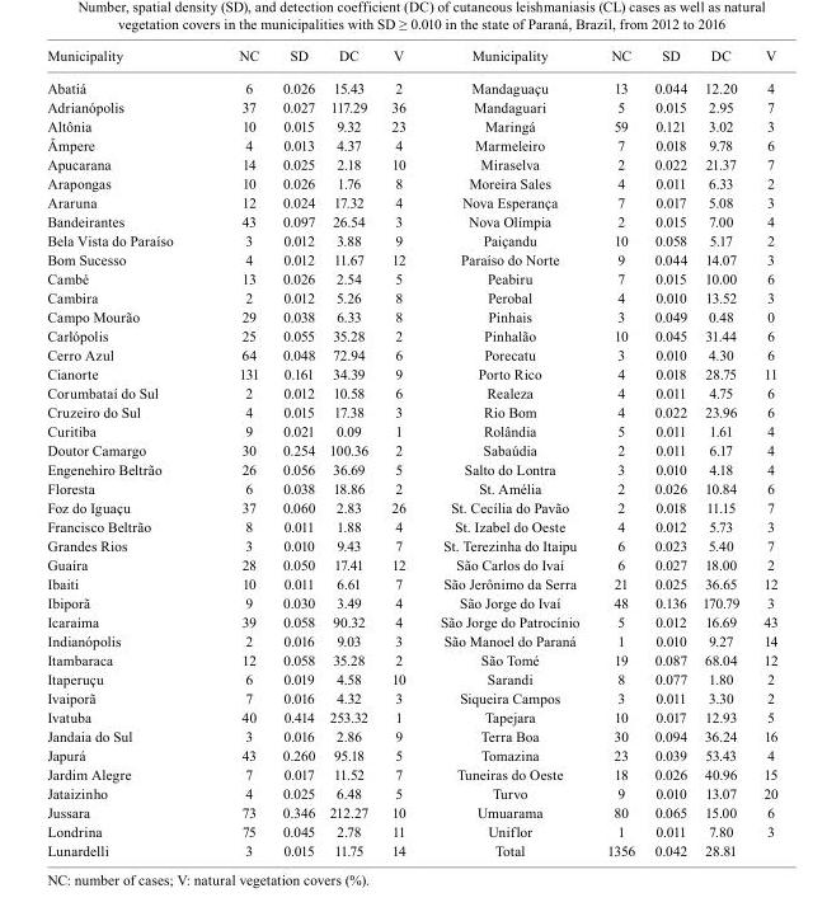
<table><thead><tr><td>Municipality</td><td>NC</td><td>SD</td><td>DC</td><td>V</td><td>Municipality</td><td>NC</td><td>SD</td><td>DC</td><td>V</td></tr></thead><tbody><tr><td>Abatiá</td><td>6</td><td>0.026</td><td>15.43</td><td>2</td><td>Mandaguaçu</td><td>13</td><td>0.044</td><td>12.20</td><td>4</td></tr><tr><td>Adrianópolis</td><td>37</td><td>0.027</td><td>117.29</td><td>36</td><td>Mandaguari</td><td>5</td><td>0.015</td><td>2.95</td><td>7</td></tr><tr><td>Altônia</td><td>10</td><td>0.015</td><td>9.32</td><td>23</td><td>Maringá</td><td>59</td><td>0.121</td><td>3.02</td><td>3</td></tr><tr><td>Âmpere</td><td>4</td><td>0.013</td><td>4.37</td><td>4</td><td>Marmeleiro</td><td>7</td><td>0.018</td><td>9.78</td><td>6</td></tr><tr><td>Apucarana</td><td>14</td><td>0.025</td><td>2.18</td><td>10</td><td>Miraselva</td><td>2</td><td>0.022</td><td>21.37</td><td>7</td></tr><tr><td>Arapongas</td><td>10</td><td>0.026</td><td>1.76</td><td>8</td><td>Moreira Sales</td><td>4</td><td>0.011</td><td>6.33</td><td>2</td></tr><tr><td>Araruna</td><td>12</td><td>0.024</td><td>17.32</td><td>4</td><td>Nova Esperança</td><td>7</td><td>0.017</td><td>5.08</td><td>3</td></tr><tr><td>Bandeirantes</td><td>43</td><td>0.097</td><td>26.54</td><td>3</td><td>Nova Olímpia</td><td>2</td><td>0.015</td><td>7.00</td><td>4</td></tr><tr><td>Bela Vista do Paraíso</td><td>3</td><td>0.012</td><td>3.88</td><td>9</td><td>Paiçandu</td><td>10</td><td>0.058</td><td>5.17</td><td>2</td></tr><tr><td>Bom Sucesso</td><td>4</td><td>0.012</td><td>11.67</td><td>12</td><td>Paraíso do Norte</td><td>9</td><td>0.044</td><td>14.07</td><td>3</td></tr><tr><td>Cambé</td><td>13</td><td>0.026</td><td>2.54</td><td>5</td><td>Peabiru</td><td>7</td><td>0.015</td><td>10.00</td><td>6</td></tr><tr><td>Cambira</td><td>2</td><td>0.012</td><td>5.26</td><td>8</td><td>Perobal</td><td>4</td><td>0.010</td><td>13.52</td><td>3</td></tr><tr><td>Campo Mourão</td><td>29</td><td>0.038</td><td>6.33</td><td>8</td><td>Pinhais</td><td>3</td><td>0.049</td><td>0.48</td><td>0</td></tr><tr><td>Carlópolis</td><td>25</td><td>0.055</td><td>35.28</td><td>2</td><td>Pinhalão</td><td>10</td><td>0.045</td><td>31.44</td><td>6</td></tr><tr><td>Cerro Azul</td><td>64</td><td>0.048</td><td>72.94</td><td>6</td><td>Porecatu</td><td>3</td><td>0.010</td><td>4.30</td><td>6</td></tr><tr><td>Cianorte</td><td>131</td><td>0.161</td><td>34.39</td><td>9</td><td>Porto Rico</td><td>4</td><td>0.018</td><td>28.75</td><td>11</td></tr><tr><td>Corumbataí do Sul</td><td>2</td><td>0.012</td><td>10.58</td><td>6</td><td>Realeza</td><td>4</td><td>0.011</td><td>4.75</td><td>6</td></tr><tr><td>Cruzeiro do Sul</td><td>4</td><td>0.015</td><td>17.38</td><td>3</td><td>Rio Bom</td><td>4</td><td>0.022</td><td>23.96</td><td>6</td></tr><tr><td>Curitiba</td><td>9</td><td>0.021</td><td>0.09</td><td>1</td><td>Rolândia</td><td>5</td><td>0.011</td><td>1.61</td><td>4</td></tr><tr><td>Doutor Camargo</td><td>30</td><td>0.254</td><td>100.36</td><td>2</td><td>Sabaúdia</td><td>2</td><td>0.011</td><td>6.17</td><td>4</td></tr><tr><td>Engenehiro Beltrão</td><td>26</td><td>0.056</td><td>36.69</td><td>5</td><td>Salto do Lontra</td><td>3</td><td>0.010</td><td>4.18</td><td>4</td></tr><tr><td>Floresta</td><td>6</td><td>0.038</td><td>18.86</td><td>2</td><td>St. Amélia</td><td>2</td><td>0.026</td><td>10.84</td><td>6</td></tr><tr><td>Foz do Iguaçu</td><td>37</td><td>0.060</td><td>2.83</td><td>26</td><td>St. Cecília do Pavão</td><td>2</td><td>0.018</td><td>11.15</td><td>7</td></tr><tr><td>Francisco Beltrão</td><td>8</td><td>0.011</td><td>1.88</td><td>4</td><td>St. Izabel do Oeste</td><td>4</td><td>0.012</td><td>5.73</td><td>3</td></tr><tr><td>Grandes Rios</td><td>3</td><td>0.010</td><td>9.43</td><td>7</td><td>St. Terezinha do Itaipu</td><td>6</td><td>0.023</td><td>5.40</td><td>7</td></tr><tr><td>Guaíra</td><td>28</td><td>0.050</td><td>17.41</td><td>12</td><td>São Carlos do Ivaí</td><td>6</td><td>0.027</td><td>18.00</td><td>2</td></tr><tr><td>Ibaiti</td><td>10</td><td>0.011</td><td>6.61</td><td>7</td><td>São Jerônimo da Serra</td><td>21</td><td>0.025</td><td>36.65</td><td>12</td></tr><tr><td>Ibiporã</td><td>9</td><td>0.030</td><td>3.49</td><td>4</td><td>São Jorge do Ivaí</td><td>48</td><td>0.136</td><td>170.79</td><td>3</td></tr><tr><td>Icaraíma</td><td>39</td><td>0.058</td><td>90.32</td><td>4</td><td>São Jorge do Patrocínio</td><td>5</td><td>0.012</td><td>16.69</td><td>43</td></tr><tr><td>Indianópolis</td><td>2</td><td>0.016</td><td>9.03</td><td>3</td><td>São Manoel do Paraná</td><td>1</td><td>0.010</td><td>9.27</td><td>14</td></tr><tr><td>Itambaraca</td><td>12</td><td>0.058</td><td>35.28</td><td>2</td><td>São Tomé</td><td>19</td><td>0.087</td><td>68.04</td><td>12</td></tr><tr><td>Itaperuçu</td><td>6</td><td>0.019</td><td>4.58</td><td>10</td><td>Sarandi</td><td>8</td><td>0.077</td><td>1.80</td><td>2</td></tr><tr><td>Ivaiporã</td><td>7</td><td>0.016</td><td>4.32</td><td>3</td><td>Siqueira Campos</td><td>3</td><td>0.011</td><td>3.30</td><td>2</td></tr><tr><td>Ivatuba</td><td>40</td><td>0.414</td><td>253.32</td><td>1</td><td>Tapejara</td><td>10</td><td>0.017</td><td>12.93</td><td>5</td></tr><tr><td>Jandaia do Sul</td><td>3</td><td>0.016</td><td>2.86</td><td>9</td><td>Terra Boa</td><td>30</td><td>0.094</td><td>36.24</td><td>16</td></tr><tr><td>Japurá</td><td>43</td><td>0.260</td><td>95.18</td><td>5</td><td>Tomazina</td><td>23</td><td>0.039</td><td>53.43</td><td>4</td></tr><tr><td>Jardim Alegre</td><td>7</td><td>0.017</td><td>11.52</td><td>7</td><td>Tuneiras do Oeste</td><td>18</td><td>0.026</td><td>40.96</td><td>15</td></tr><tr><td>Jataizinho</td><td>4</td><td>0.025</td><td>6.48</td><td>5</td><td>Turvo</td><td>9</td><td>0.010</td><td>13.07</td><td>20</td></tr><tr><td>Jussara</td><td>73</td><td>0.346</td><td>212.27</td><td>10</td><td>Umuarama</td><td>80</td><td>0.065</td><td>15.00</td><td>6</td></tr><tr><td>Londrina</td><td>75</td><td>0.045</td><td>2.78</td><td>11</td><td>Uniflor</td><td>1</td><td>0.011</td><td>7.80</td><td>3</td></tr><tr><td>Lunardelli</td><td>3</td><td>0.015</td><td>11.75</td><td>14</td><td>Total</td><td>1356</td><td>0.042</td><td>28.81</td><td></td></tr></tbody></table>